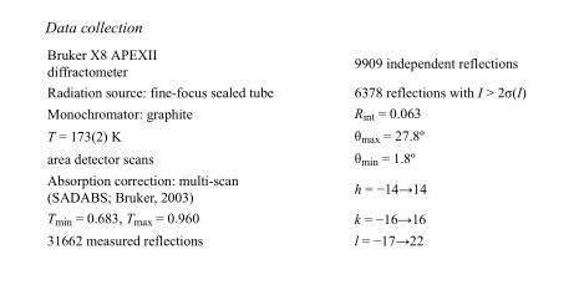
<table><tbody><tr><td>Bruker X8 APEXII diffractometer</td><td>9909 independent reflections</td></tr><tr><td>Radiation source: fine-focus sealed tube</td><td>6378 reflections with I &gt; 2σ(I)</td></tr><tr><td>Monochromator: graphite</td><td>R<sub>int</sub> = 0.063</td></tr><tr><td>T = 173(2) K</td><td>θ<sub>max</sub> = 27.8º</td></tr><tr><td>area detector scans</td><td>θ<sub>min</sub> = 1.8º</td></tr><tr><td>Absorption correction: multi-scan (SADABS; Bruker, 2003)</td><td>h = −14→14</td></tr><tr><td>T<sub>min</sub> = 0.683, T<sub>max</sub> = 0.960</td><td>k = −16→16</td></tr><tr><td>31662 measured reflections</td><td>l = −17→22</td></tr></tbody></table>